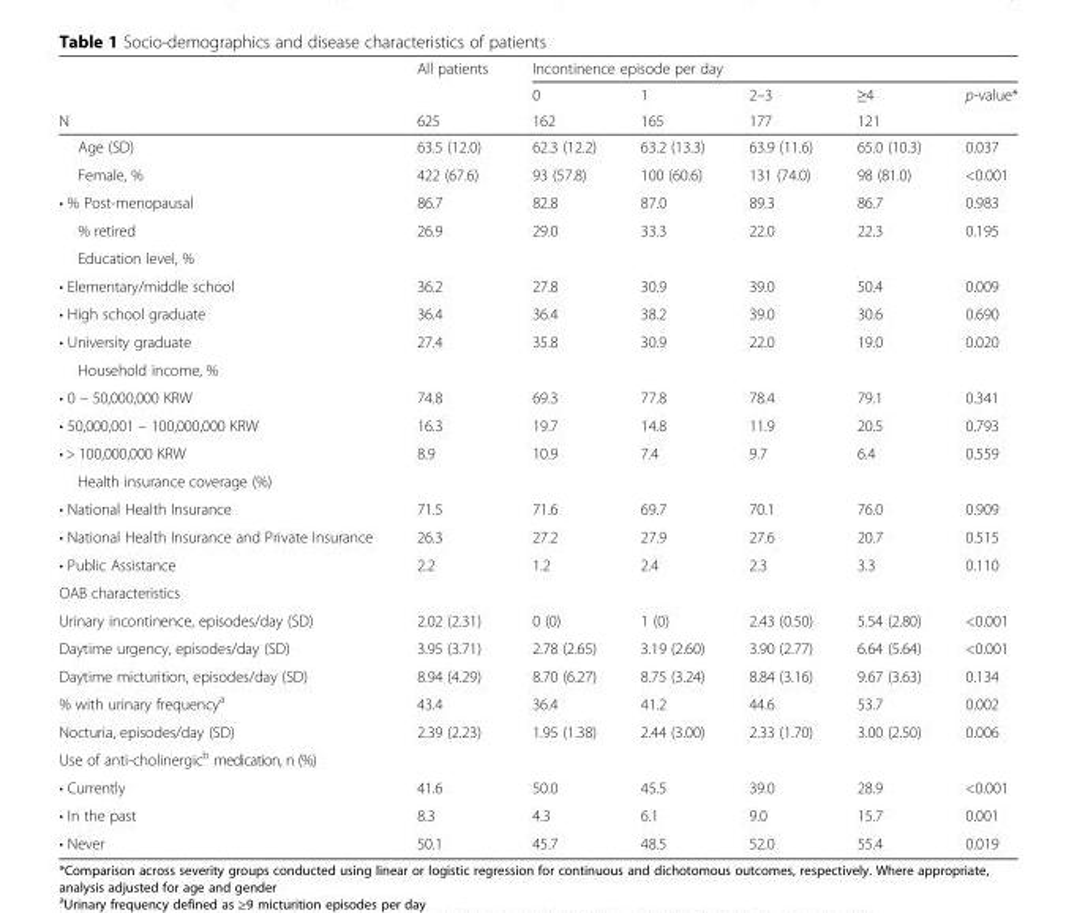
<table><thead><tr><td rowspan="3">N</td><td rowspan="3">All patients 625</td><td colspan="5">Incontinence episode per day</td></tr><tr><td rowspan="2">0 162</td><td rowspan="2">1 165</td><td rowspan="2">2–3 177</td><td rowspan="2">≥4 121</td><td rowspan="2">p-value*</td></tr><tr></tr></thead><tbody><tr><td>Age (SD)</td><td>63.5 (12.0)</td><td>62.3 (12.2)</td><td>63.2 (13.3)</td><td>63.9 (11.6)</td><td>65.0 (10.3)</td><td>0.037</td></tr><tr><td>Female, %</td><td>422 (67.6)</td><td>93 (57.8)</td><td>100 (60.6)</td><td>131 (74.0)</td><td>98 (81.0)</td><td>&lt;0.001</td></tr><tr><td>• % Post-menopausal</td><td>86.7</td><td>82.8</td><td>87.0</td><td>89.3</td><td>86.7</td><td>0.983</td></tr><tr><td>% retired</td><td>26.9</td><td>29.0</td><td>33.3</td><td>22.0</td><td>22.3</td><td>0.195</td></tr><tr><td colspan="7">Education level, %</td></tr><tr><td>• Elementary/middle school</td><td>36.2</td><td>27.8</td><td>30.9</td><td>39.0</td><td>50.4</td><td>0.009</td></tr><tr><td>• High school graduate</td><td>36.4</td><td>36.4</td><td>38.2</td><td>39.0</td><td>30.6</td><td>0.690</td></tr><tr><td>• University graduate</td><td>27.4</td><td>35.8</td><td>30.9</td><td>22.0</td><td>19.0</td><td>0.020</td></tr><tr><td colspan="7">Household income, %</td></tr><tr><td>• 0 – 50,000,000 KRW</td><td>74.8</td><td>69.3</td><td>77.8</td><td>78.4</td><td>79.1</td><td>0.341</td></tr><tr><td>• 50,000,001 – 100,000,000 KRW</td><td>16.3</td><td>19.7</td><td>14.8</td><td>11.9</td><td>20.5</td><td>0.793</td></tr><tr><td>• &gt; 100,000,000 KRW</td><td>8.9</td><td>10.9</td><td>7.4</td><td>9.7</td><td>6.4</td><td>0.559</td></tr><tr><td colspan="7">Health insurance coverage (%)</td></tr><tr><td>• National Health Insurance</td><td>71.5</td><td>71.6</td><td>69.7</td><td>70.1</td><td>76.0</td><td>0.909</td></tr><tr><td>• National Health Insurance and Private Insurance</td><td>26.3</td><td>27.2</td><td>27.9</td><td>27.6</td><td>20.7</td><td>0.515</td></tr><tr><td>• Public Assistance</td><td>2.2</td><td>1.2</td><td>2.4</td><td>2.3</td><td>3.3</td><td>0.110</td></tr><tr><td colspan="7">OAB characteristics</td></tr><tr><td>Urinary incontinence, episodes/day (SD)</td><td>2.02 (2.31)</td><td>0 (0)</td><td>1 (0)</td><td>2.43 (0.50)</td><td>5.54 (2.80)</td><td>&lt;0.001</td></tr><tr><td>Daytime urgency, episodes/day (SD)</td><td>3.95 (3.71)</td><td>2.78 (2.65)</td><td>3.19 (2.60)</td><td>3.90 (2.77)</td><td>6.64 (5.64)</td><td>&lt;0.001</td></tr><tr><td>Daytime micturition, episodes/day (SD)</td><td>8.94 (4.29)</td><td>8.70 (6.27)</td><td>8.75 (3.24)</td><td>8.84 (3.16)</td><td>9.67 (3.63)</td><td>0.134</td></tr><tr><td>% with urinary frequency<sup>a</sup></td><td>43.4</td><td>36.4</td><td>41.2</td><td>44.6</td><td>53.7</td><td>0.002</td></tr><tr><td>Nocturia, episodes/day (SD)</td><td>2.39 (2.23)</td><td>1.95 (1.38)</td><td>2.44 (3.00)</td><td>2.33 (1.70)</td><td>3.00 (2.50)</td><td>0.006</td></tr><tr><td colspan="7">Use of anti-cholinergic<sup>b</sup> medication, n (%)</td></tr><tr><td>• Currently</td><td>41.6</td><td>50.0</td><td>45.5</td><td>39.0</td><td>28.9</td><td>&lt;0.001</td></tr><tr><td>• In the past</td><td>8.3</td><td>4.3</td><td>6.1</td><td>9.0</td><td>15.7</td><td>0.001</td></tr><tr><td>• Never</td><td>50.1</td><td>45.7</td><td>48.5</td><td>52.0</td><td>55.4</td><td>0.019</td></tr></tbody></table>